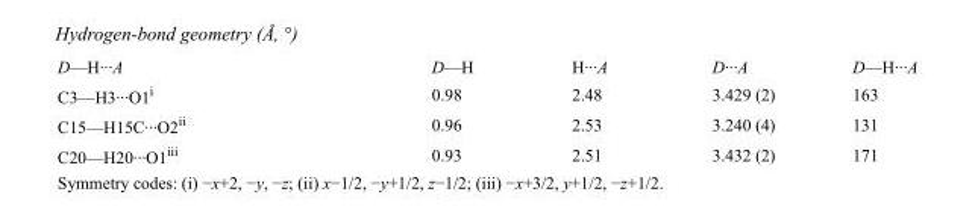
<table><tbody><tr><td>D—H···A</td><td>D—H</td><td>H···A</td><td>D···A</td><td>D—H···A</td></tr><tr><td>C3—H3···O1<sup>i</sup></td><td>0.98</td><td>2.48</td><td>3.429 (2)</td><td>163</td></tr><tr><td>C15—H15C···O2<sup>ii</sup></td><td>0.96</td><td>2.53</td><td>3.240 (4)</td><td>131</td></tr><tr><td>C20—H20···O1<sup>iii</sup></td><td>0.93</td><td>2.51</td><td>3.432 (2)</td><td>171</td></tr></tbody></table>